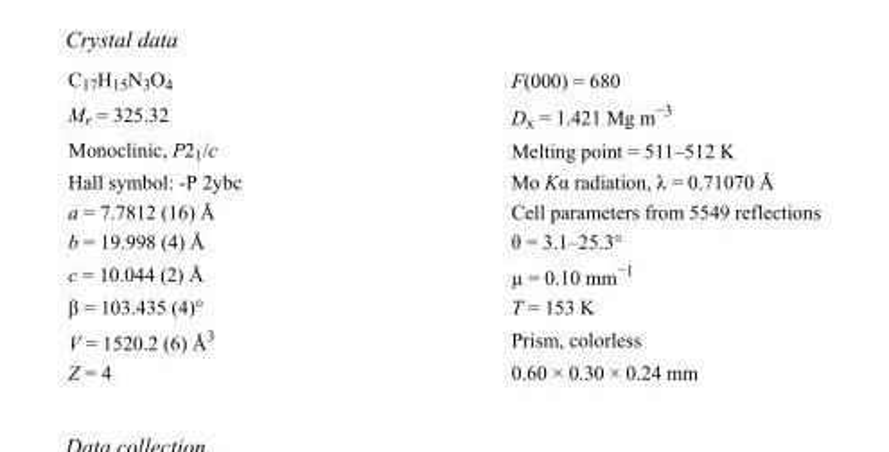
<table><tbody><tr><td>C<sub>17</sub>H<sub>15</sub>N<sub>3</sub>O<sub>4</sub></td><td>F(000) = 680</td></tr><tr><td>M<sub>r</sub> = 325.32</td><td>D<sub>x</sub> = 1.421 Mg m<sup>−3</sup></td></tr><tr><td>Monoclinic, P2<sub>1</sub>/c</td><td>Melting point = 511–512 K</td></tr><tr><td>Hall symbol: -P 2ybc</td><td>Mo Kα radiation, λ = 0.71070 Å</td></tr><tr><td>a = 7.7812 (16) Å</td><td>Cell parameters from 5549 reflections</td></tr><tr><td>b = 19.998 (4) Å</td><td>θ = 3.1–25.3°</td></tr><tr><td>c = 10.044 (2) Å</td><td>µ = 0.10 mm<sup>−1</sup></td></tr><tr><td>β = 103.435 (4)°</td><td>T = 153 K</td></tr><tr><td>V = 1520.2 (6) Å<sup>3</sup></td><td>Prism, colorless</td></tr><tr><td>Z = 4</td><td>0.60 × 0.30 × 0.24 mm</td></tr></tbody></table>